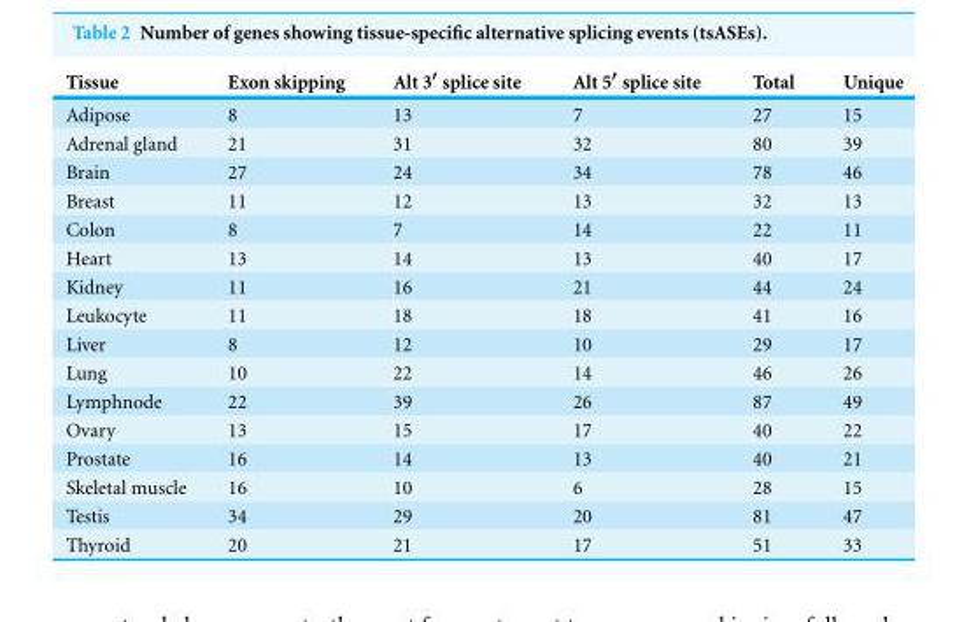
<table><thead><tr><td>Tissue</td><td>Exon skipping</td><td>Alt 3′ splice site</td><td>Alt 5′ splice site</td><td>Total</td><td>Unique</td></tr></thead><tbody><tr><td>Adipose</td><td>8</td><td>13</td><td>7</td><td>27</td><td>15</td></tr><tr><td>Adrenal gland</td><td>21</td><td>31</td><td>32</td><td>80</td><td>39</td></tr><tr><td>Brain</td><td>27</td><td>24</td><td>34</td><td>78</td><td>46</td></tr><tr><td>Breast</td><td>11</td><td>12</td><td>13</td><td>32</td><td>13</td></tr><tr><td>Colon</td><td>8</td><td>7</td><td>14</td><td>22</td><td>11</td></tr><tr><td>Heart</td><td>13</td><td>14</td><td>13</td><td>40</td><td>17</td></tr><tr><td>Kidney</td><td>11</td><td>16</td><td>21</td><td>44</td><td>24</td></tr><tr><td>Leukocyte</td><td>11</td><td>18</td><td>18</td><td>41</td><td>16</td></tr><tr><td>Liver</td><td>8</td><td>12</td><td>10</td><td>29</td><td>17</td></tr><tr><td>Lung</td><td>10</td><td>22</td><td>14</td><td>46</td><td>26</td></tr><tr><td>Lymphnode</td><td>22</td><td>39</td><td>26</td><td>87</td><td>49</td></tr><tr><td>Ovary</td><td>13</td><td>15</td><td>17</td><td>40</td><td>22</td></tr><tr><td>Prostate</td><td>16</td><td>14</td><td>13</td><td>40</td><td>21</td></tr><tr><td>Skeletal muscle</td><td>16</td><td>10</td><td>6</td><td>28</td><td>15</td></tr><tr><td>Testis</td><td>34</td><td>29</td><td>20</td><td>81</td><td>47</td></tr><tr><td>Thyroid</td><td>20</td><td>21</td><td>17</td><td>51</td><td>33</td></tr></tbody></table>